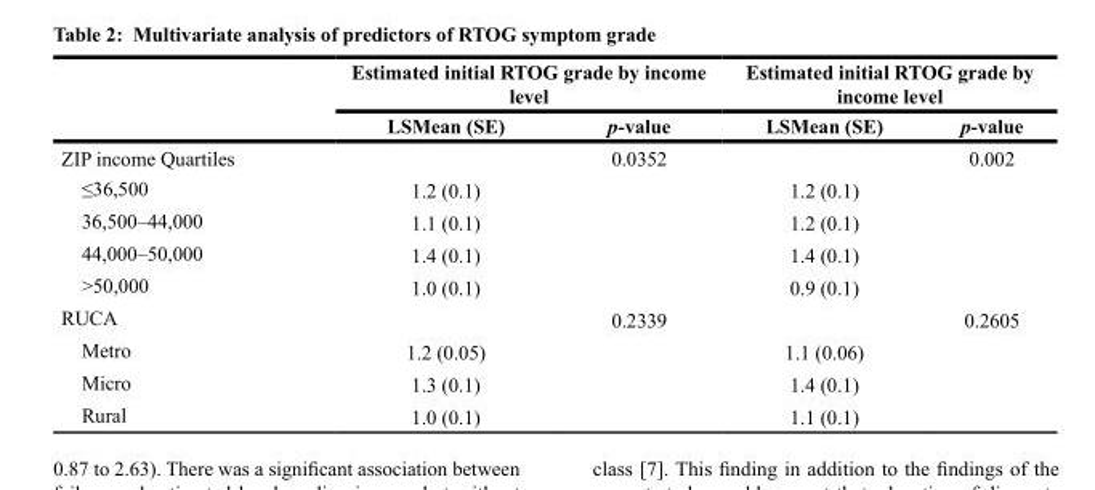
<table><thead><tr><td rowspan="2"></td><td colspan="2">Estimated initial RTOG grade by income level</td><td colspan="2">Estimated initial RTOG grade by income level</td></tr><tr><td>LSMean (SE)</td><td>p-value</td><td>LSMean (SE)</td><td>p-value</td></tr></thead><tbody><tr><td>ZIP income Quartiles</td><td></td><td>0.0352</td><td></td><td>0.002</td></tr><tr><td>≤36,500</td><td>1.2 (0.1)</td><td></td><td>1.2 (0.1)</td><td></td></tr><tr><td>36,500–44,000</td><td>1.1 (0.1)</td><td></td><td>1.2 (0.1)</td><td></td></tr><tr><td>44,000–50,000</td><td>1.4 (0.1)</td><td></td><td>1.4 (0.1)</td><td></td></tr><tr><td>&gt;50,000</td><td>1.0 (0.1)</td><td></td><td>0.9 (0.1)</td><td></td></tr><tr><td>RUCA</td><td></td><td>0.2339</td><td></td><td>0.2605</td></tr><tr><td>Metro</td><td>1.2 (0.05)</td><td></td><td>1.1 (0.06)</td><td></td></tr><tr><td>Micro</td><td>1.3 (0.1)</td><td></td><td>1.4 (0.1)</td><td></td></tr><tr><td>Rural</td><td>1.0 (0.1)</td><td></td><td>1.1 (0.1)</td><td></td></tr></tbody></table>